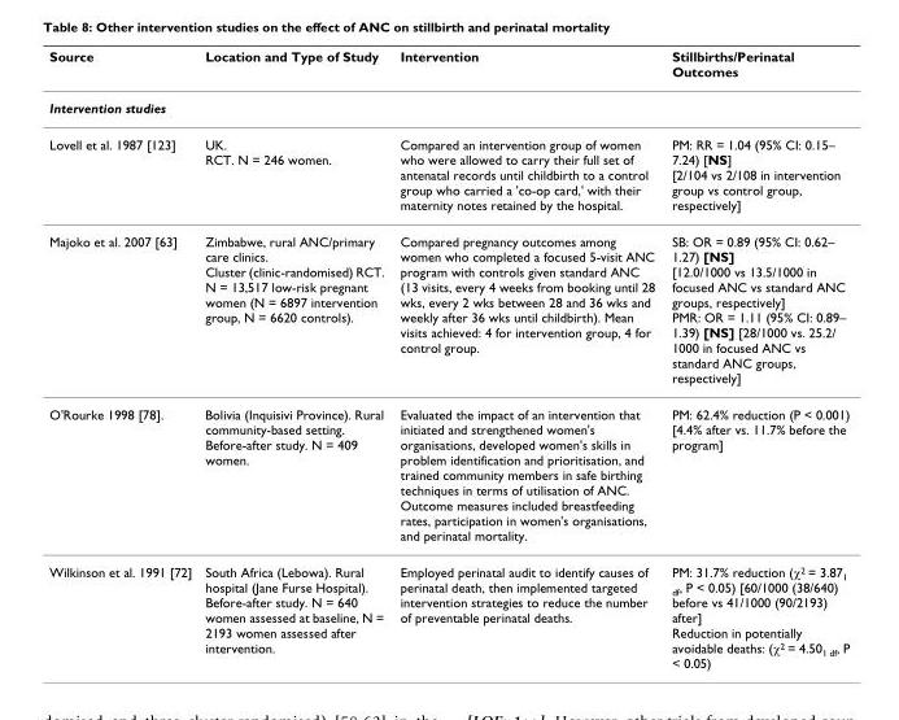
<table><thead><tr><td>Source</td><td>Location and Type of Study</td><td>Intervention</td><td>Stillbirths/Perinatal Outcomes</td></tr></thead><tbody><tr><td colspan="4">Intervention studies</td></tr><tr><td>Lovell et al. 1987 [123]</td><td>UK. RCT. N = 246 women.</td><td>Compared an intervention group of women who were allowed to carry their full set of antenatal records until childbirth to a control group who carried a &#x27;co-op card,&#x27; with their maternity notes retained by the hospital.</td><td>PM: RR = 1.04 (95% CI: 0.15– 7.24) [NS] [2/104 vs 2/108 in intervention group vs control group, respectively]</td></tr><tr><td>Majoko et al. 2007 [63]</td><td>Zimbabwe, rural ANC/primary care clinics. Cluster (clinic-randomised) RCT. N = 13,517 low-risk pregnant women (N = 6897 intervention group, N = 6620 controls).</td><td>Compared pregnancy outcomes among women who completed a focused 5-visit ANC program with controls given standard ANC (13 visits, every 4 weeks from booking until 28 wks, every 2 wks between 28 and 36 wks and weekly after 36 wks until childbirth). Mean visits achieved: 4 for intervention group, 4 for control group.</td><td>SB: OR = 0.89 (95% CI: 0.62– 1.27) [NS] [12.0/1000 vs 13.5/1000 in focused ANC vs standard ANC groups, respectively] PMR: OR = 1.11 (95% CI: 0.89– 1.39) [NS] [28/1000 vs. 25.2/ 1000 in focused ANC vs standard ANC groups, respectively]</td></tr><tr><td>O&#x27;Rourke 1998 [78].</td><td>Bolivia (Inquisivi Province). Rural community-based setting. Before-after study. N = 409 women.</td><td>Evaluated the impact of an intervention that initiated and strengthened women&#x27;s organisations, developed women&#x27;s skills in problem identification and prioritisation, and trained community members in safe birthing techniques in terms of utilisation of ANC. Outcome measures included breastfeeding rates, participation in women&#x27;s organisations, and perinatal mortality.</td><td>PM: 62.4% reduction (P &lt; 0.001) [4.4% after vs. 11.7% before the program]</td></tr><tr><td>Wilkinson et al. 1991 [72]</td><td>South Africa (Lebowa). Rural hospital (Jane Furse Hospital). Before-after study. N = 640 women assessed at baseline, N = 2193 women assessed after intervention.</td><td>Employed perinatal audit to identify causes of perinatal death, then implemented targeted intervention strategies to reduce the number of preventable perinatal deaths.</td><td>PM: 31.7% reduction (χ<sup>2</sup> = 3.87<sub>1 df</sub>, P &lt; 0.05) [60/1000 (38/640) before vs 41/1000 (90/2193) after] Reduction in potentially avoidable deaths: (χ<sup>2</sup> = 4.50<sub>1 df</sub>, P &lt; 0.05)</td></tr></tbody></table>